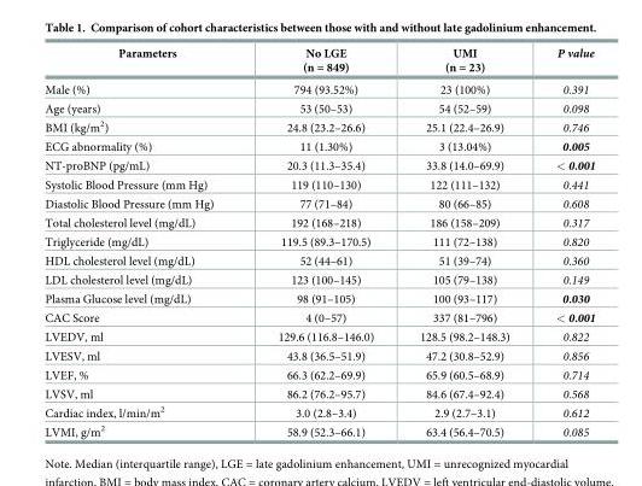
<table><thead><tr><td>Parameters</td><td>No LGE (n = 849)</td><td>UMI (n = 23)</td><td>P value</td></tr></thead><tbody><tr><td>Male (%)</td><td>794 (93.52%)</td><td>23 (100%)</td><td>0.391</td></tr><tr><td>Age (years)</td><td>53 (50–53)</td><td>54 (52–59)</td><td>0.098</td></tr><tr><td>BMI (kg/m<sup>2</sup>)</td><td>24.8 (23.2–26.6)</td><td>25.1 (22.4–26.9)</td><td>0.746</td></tr><tr><td>ECG abnormality (%)</td><td>11 (1.30%)</td><td>3 (13.04%)</td><td>0.005</td></tr><tr><td>NT-proBNP (pg/mL)</td><td>20.3 (11.3–35.4)</td><td>33.8 (14.0–69.9)</td><td>&lt; 0.001</td></tr><tr><td>Systolic Blood Pressure (mm Hg)</td><td>119 (110–130)</td><td>122 (111–132)</td><td>0.441</td></tr><tr><td>Diastolic Blood Pressure (mm Hg)</td><td>77 (71–84)</td><td>80 (66–85)</td><td>0.608</td></tr><tr><td>Total cholesterol level (mg/dL)</td><td>192 (168–218)</td><td>186 (158–209)</td><td>0.317</td></tr><tr><td>Triglyceride (mg/dL)</td><td>119.5 (89.3–170.5)</td><td>111 (72–138)</td><td>0.820</td></tr><tr><td>HDL cholesterol level (mg/dL)</td><td>52 (44–61)</td><td>51 (39–74)</td><td>0.360</td></tr><tr><td>LDL cholesterol level (mg/dL)</td><td>123 (100–145)</td><td>105 (79–138)</td><td>0.149</td></tr><tr><td>Plasma Glucose level (mg/dL)</td><td>98 (91–105)</td><td>100 (93–117)</td><td>0.030</td></tr><tr><td>CAC Score</td><td>4 (0–57)</td><td>337 (81–796)</td><td>&lt; 0.001</td></tr><tr><td>LVEDV, ml</td><td>129.6 (116.8–146.0)</td><td>128.5 (98.2–148.3)</td><td>0.822</td></tr><tr><td>LVESV, ml</td><td>43.8 (36.5–51.9)</td><td>47.2 (30.8–52.9)</td><td>0.856</td></tr><tr><td>LVEF, %</td><td>66.3 (62.2–69.9)</td><td>65.9 (60.5–68.9)</td><td>0.714</td></tr><tr><td>LVSV, ml</td><td>86.2 (76.2–95.7)</td><td>84.6 (67.4–92.4)</td><td>0.568</td></tr><tr><td>Cardiac index, l/min/m<sup>2</sup></td><td>3.0 (2.8–3.4)</td><td>2.9 (2.7–3.1)</td><td>0.612</td></tr><tr><td>LVMI, g/m<sup>2</sup></td><td>58.9 (52.3–66.1)</td><td>63.4 (56.4–70.5)</td><td>0.085</td></tr></tbody></table>